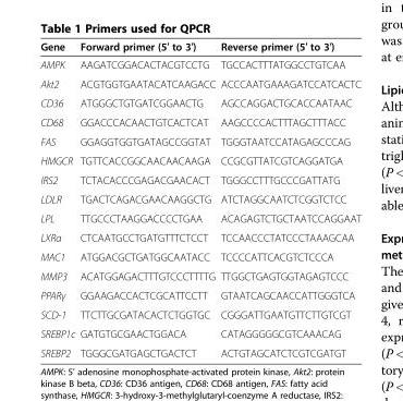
<table><thead><tr><td>Gene</td><td>Forward primer (5′ to 3′)</td><td>Reverse primer (5′ to 3′)</td></tr></thead><tbody><tr><td>AMPK</td><td>AAGATCGGACACTACGTCCTG</td><td>TGCCACTTTATGGCCTGTCAA</td></tr><tr><td>Akt2</td><td>ACGTGGTGAATACATCAAGACC</td><td>ACCCAATGAAAGATCCATCACTC</td></tr><tr><td>CD36</td><td>ATGGGCTGTGATCGGAACTG</td><td>AGCCAGGACTGCACCAATAAC</td></tr><tr><td>CD68</td><td>GGACCCACAACTGTCACTCAT</td><td>AAGCCCCACTTTAGCTTTACC</td></tr><tr><td>FAS</td><td>GGAGGTGGTGATAGCCGGTAT</td><td>TGGGTAATCCATAGAGCCCAG</td></tr><tr><td>HMGCR</td><td>TGTTCACCGGCAACAACAAGA</td><td>CCGCGTTATCGTCAGGATGA</td></tr><tr><td>IRS2</td><td>TCTACACCCGAGACGAACACT</td><td>TGGGCCTTTGCCCGATTATG</td></tr><tr><td>LDLR</td><td>TGACTCAGACGAACAAGGCTG</td><td>ATCTAGGCAATCTCGGTCTCC</td></tr><tr><td>LPL</td><td>TTGCCCTAAGGACCCCTGAA</td><td>ACAGAGTCTGCTAATCCAGGAAT</td></tr><tr><td>LXRα</td><td>CTCAATGCCTGATGTTTCTCCT</td><td>TCCAACCCTATCCCTAAAGCAA</td></tr><tr><td>MAC1</td><td>ATGGACGCTGATGGCAATACC</td><td>TCCCCATTCACGTCTCCCA</td></tr><tr><td>MMP3</td><td>ACATGGAGACTTTGTCCCTTTTG</td><td>TTGGCTGAGTGGTAGAGTCCC</td></tr><tr><td>PPARγ</td><td>GGAAGACCACTCGCATTCCTT</td><td>GTAATCAGCAACCATTGGGTCA</td></tr><tr><td>SCD-1</td><td>TTCTTGCGATACACTCTGGTGC</td><td>CGGGATTGAATGTTCTTGTCGT</td></tr><tr><td>SREBP1c</td><td>GATGTGCGAACTGGACA</td><td>CATAGGGGGCGTCAAACAG</td></tr><tr><td>SREBP2</td><td>TGGGCGATGAGCTGACTCT</td><td>ACTGTAGCATCTCGTCGATGT</td></tr></tbody></table>